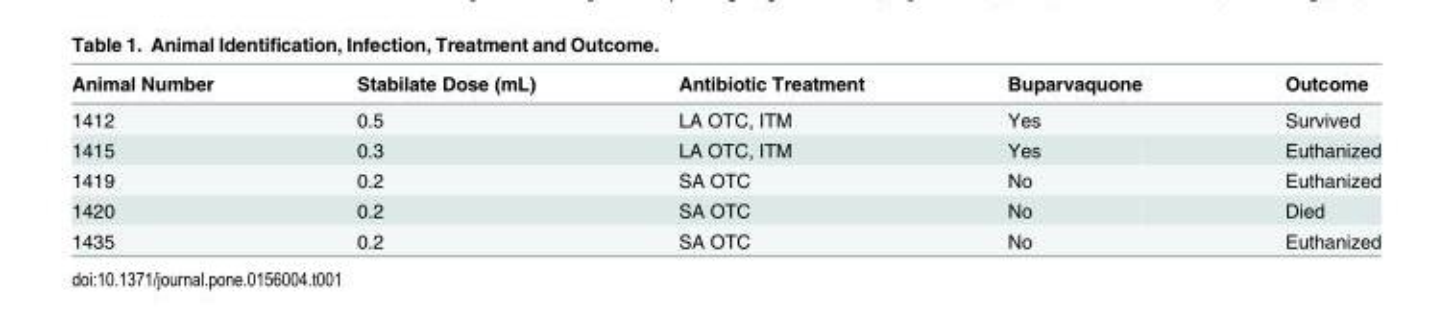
<table><thead><tr><td>Animal Number</td><td>Stabilate Dose (mL)</td><td>Antibiotic Treatment</td><td>Buparvaquone</td><td>Outcome</td></tr></thead><tbody><tr><td>1412</td><td>0.5</td><td>LA OTC, ITM</td><td>Yes</td><td>Survived</td></tr><tr><td>1415</td><td>0.3</td><td>LA OTC, ITM</td><td>Yes</td><td>Euthanized</td></tr><tr><td>1419</td><td>0.2</td><td>SA OTC</td><td>No</td><td>Euthanized</td></tr><tr><td>1420</td><td>0.2</td><td>SA OTC</td><td>No</td><td>Died</td></tr><tr><td>1435</td><td>0.2</td><td>SA OTC</td><td>No</td><td>Euthanized</td></tr></tbody></table>